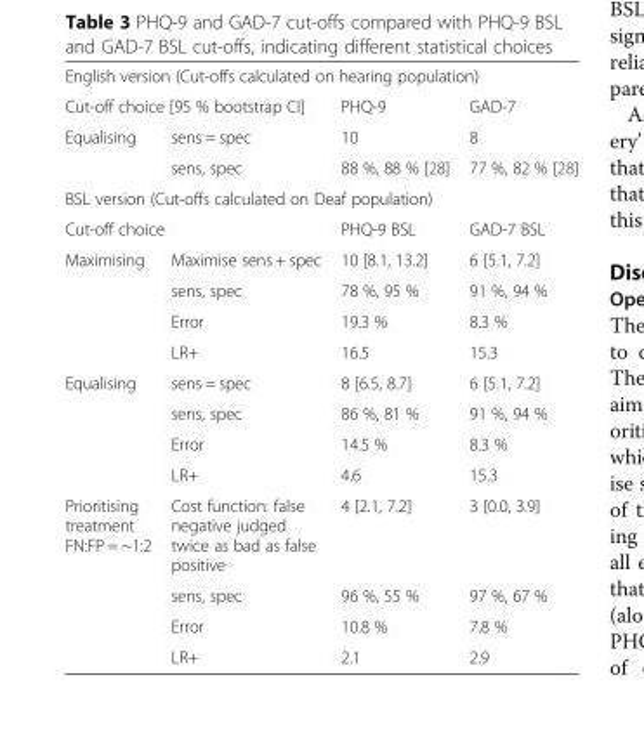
<table><tbody><tr><td colspan="4">English version (Cut-offs calculated on hearing population)</td></tr><tr><td colspan="2">Cut-off choice [95 % bootstrap CI]</td><td>PHQ-9</td><td>GAD-7</td></tr><tr><td rowspan="2">Equalising</td><td>sens = spec</td><td>10</td><td>8</td></tr><tr><td>sens, spec</td><td>88 %, 88 % [28]</td><td>77 %, 82 % [28]</td></tr><tr><td colspan="4">BSL version (Cut-offs calculated on Deaf population)</td></tr><tr><td colspan="2">Cut-off choice</td><td>PHQ-9 BSL</td><td>GAD-7 BSL</td></tr><tr><td rowspan="4">Maximising</td><td>Maximise sens + spec</td><td>10 [8.1, 13.2]</td><td>6 [5.1, 7.2]</td></tr><tr><td>sens, spec</td><td>78 %, 95 %</td><td>91 %, 94 %</td></tr><tr><td>Error</td><td>19.3 %</td><td>8.3 %</td></tr><tr><td>LR+</td><td>16.5</td><td>15.3</td></tr><tr><td rowspan="4">Equalising</td><td>sens = spec</td><td>8 [6.5, 8.7]</td><td>6 [5.1, 7.2]</td></tr><tr><td>sens, spec</td><td>86 %, 81 %</td><td>91 %, 94 %</td></tr><tr><td>Error</td><td>14.5 %</td><td>8.3 %</td></tr><tr><td>LR+</td><td>4.6</td><td>15.3</td></tr><tr><td rowspan="4">Prioritising treatment FN:FP = ~1:2</td><td>Cost function: false negative judged twice as bad as false positive</td><td>4 [2.1, 7.2]</td><td>3 [0.0, 3.9]</td></tr><tr><td>sens, spec</td><td>96 %, 55 %</td><td>97 %, 67 %</td></tr><tr><td>Error</td><td>10.8 %</td><td>7.8 %</td></tr><tr><td>LR+</td><td>2.1</td><td>2.9</td></tr></tbody></table>